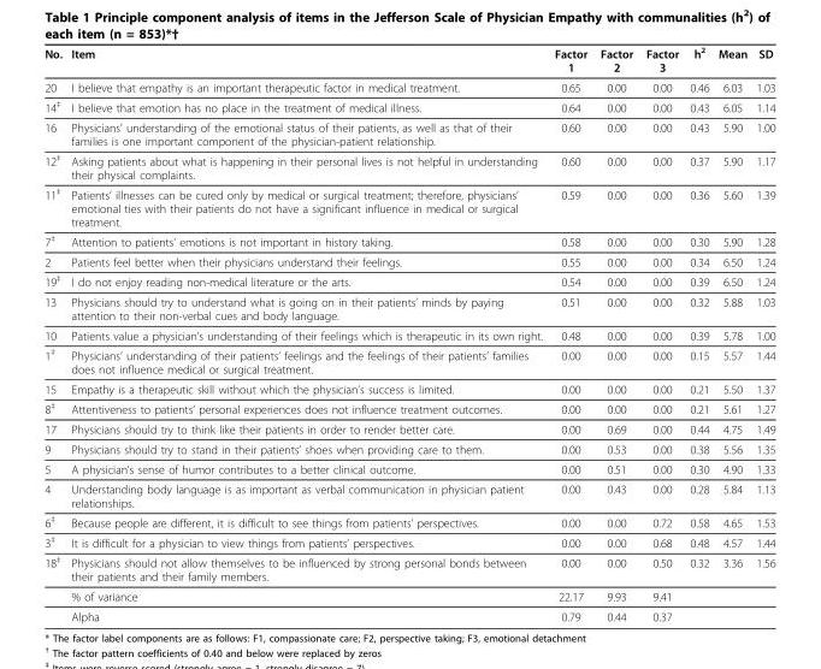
<table><thead><tr><td>No.</td><td>Item</td><td>Factor 1</td><td>Factor 2</td><td>Factor 3</td><td>h<sup>2</sup></td><td>Mean</td><td>SD</td></tr></thead><tbody><tr><td>20</td><td>I believe that empathy is an important therapeutic factor in medical treatment.</td><td>0.65</td><td>0.00</td><td>0.00</td><td>0.46</td><td>6.03</td><td>1.03</td></tr><tr><td>14<sup>‡</sup></td><td>I believe that emotion has no place in the treatment of medical illness.</td><td>0.64</td><td>0.00</td><td>0.00</td><td>0.43</td><td>6.05</td><td>1.14</td></tr><tr><td>16</td><td>Physicians’ understanding of the emotional status of their patients, as well as that of their families is one important component of the physician-patient relationship.</td><td>0.60</td><td>0.00</td><td>0.00</td><td>0.43</td><td>5.90</td><td>1.00</td></tr><tr><td>12<sup>‡</sup></td><td>Asking patients about what is happening in their personal lives is not helpful in understanding their physical complaints.</td><td>0.60</td><td>0.00</td><td>0.00</td><td>0.37</td><td>5.90</td><td>1.17</td></tr><tr><td>11<sup>‡</sup></td><td>Patients’ illnesses can be cured only by medical or surgical treatment; therefore, physicians’ emotional ties with their patients do not have a significant influence in medical or surgical treatment.</td><td>0.59</td><td>0.00</td><td>0.00</td><td>0.36</td><td>5.60</td><td>1.39</td></tr><tr><td>7<sup>‡</sup></td><td>Attention to patients’ emotions is not important in history taking.</td><td>0.58</td><td>0.00</td><td>0.00</td><td>0.30</td><td>5.90</td><td>1.28</td></tr><tr><td>2</td><td>Patients feel better when their physicians understand their feelings.</td><td>0.55</td><td>0.00</td><td>0.00</td><td>0.34</td><td>6.50</td><td>1.24</td></tr><tr><td>19<sup>‡</sup></td><td>I do not enjoy reading non-medical literature or the arts.</td><td>0.54</td><td>0.00</td><td>0.00</td><td>0.39</td><td>6.50</td><td>1.24</td></tr><tr><td>13</td><td>Physicians should try to understand what is going on in their patients’ minds by paying attention to their non-verbal cues and body language.</td><td>0.51</td><td>0.00</td><td>0.00</td><td>0.32</td><td>5.88</td><td>1.03</td></tr><tr><td>10</td><td>Patients value a physician’s understanding of their feelings which is therapeutic in its own right.</td><td>0.48</td><td>0.00</td><td>0.00</td><td>0.39</td><td>5.78</td><td>1.00</td></tr><tr><td>1<sup>‡</sup></td><td>Physicians’ understanding of their patients’ feelings and the feelings of their patients’ families does not influence medical or surgical treatment.</td><td>0.00</td><td>0.00</td><td>0.00</td><td>0.15</td><td>5.57</td><td>1.44</td></tr><tr><td>15</td><td>Empathy is a therapeutic skill without which the physician’s success is limited.</td><td>0.00</td><td>0.00</td><td>0.00</td><td>0.21</td><td>5.50</td><td>1.37</td></tr><tr><td>8<sup>‡</sup></td><td>Attentiveness to patients’ personal experiences does not influence treatment outcomes.</td><td>0.00</td><td>0.00</td><td>0.00</td><td>0.21</td><td>5.61</td><td>1.27</td></tr><tr><td>17</td><td>Physicians should try to think like their patients in order to render better care.</td><td>0.00</td><td>0.69</td><td>0.00</td><td>0.44</td><td>4.75</td><td>1.49</td></tr><tr><td>9</td><td>Physicians should try to stand in their patients’ shoes when providing care to them.</td><td>0.00</td><td>0.53</td><td>0.00</td><td>0.38</td><td>5.56</td><td>1.35</td></tr><tr><td>5</td><td>A physician’s sense of humor contributes to a better clinical outcome.</td><td>0.00</td><td>0.51</td><td>0.00</td><td>0.30</td><td>4.90</td><td>1.33</td></tr><tr><td>4</td><td>Understanding body language is as important as verbal communication in physician patient relationships.</td><td>0.00</td><td>0.43</td><td>0.00</td><td>0.28</td><td>5.84</td><td>1.13</td></tr><tr><td>6<sup>‡</sup></td><td>Because people are different, it is difficult to see things from patients’ perspectives.</td><td>0.00</td><td>0.00</td><td>0.72</td><td>0.58</td><td>4.65</td><td>1.53</td></tr><tr><td>3<sup>‡</sup></td><td>It is difficult for a physician to view things from patients’ perspectives.</td><td>0.00</td><td>0.00</td><td>0.68</td><td>0.48</td><td>4.57</td><td>1.44</td></tr><tr><td rowspan="3">18<sup>‡</sup></td><td>Physicians should not allow themselves to be influenced by strong personal bonds between their patients and their family members.</td><td>0.00</td><td>0.00</td><td>0.50</td><td>0.32</td><td>3.36</td><td>1.56</td></tr><tr><td>% of variance</td><td>22.17</td><td>9.93</td><td>9.41</td><td></td><td></td><td></td></tr><tr><td>Alpha</td><td>0.79</td><td>0.44</td><td>0.37</td><td></td><td></td><td></td></tr></tbody></table>